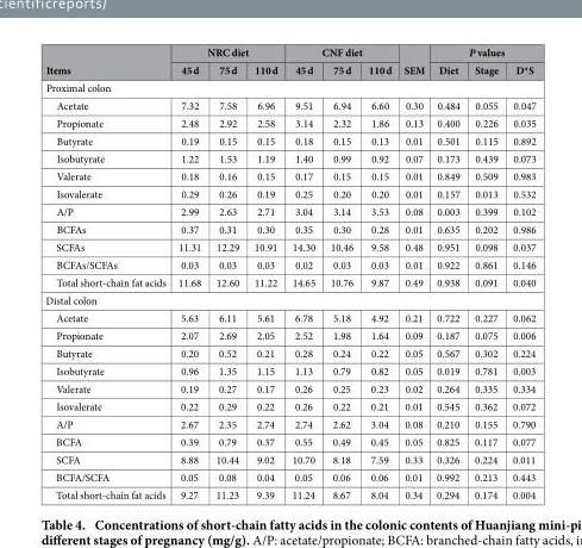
<table><thead><tr><td rowspan="2">Items</td><td colspan="3">NRC diet</td><td colspan="3">CNF diet</td><td rowspan="2">SEM</td><td colspan="3">P values</td></tr><tr><td>45 d</td><td>75 d</td><td>110 d</td><td>45 d</td><td>75 d</td><td>110 d</td><td>Diet</td><td>Stage</td><td>D*S</td></tr></thead><tbody><tr><td colspan="11">Proximal colon</td></tr><tr><td>Acetate</td><td>7.32</td><td>7.58</td><td>6.96</td><td>9.51</td><td>6.94</td><td>6.60</td><td>0.30</td><td>0.484</td><td>0.055</td><td>0.047</td></tr><tr><td>Propionate</td><td>2.48</td><td>2.92</td><td>2.58</td><td>3.14</td><td>2.32</td><td>1.86</td><td>0.13</td><td>0.400</td><td>0.226</td><td>0.035</td></tr><tr><td>Butyrate</td><td>0.19</td><td>0.15</td><td>0.15</td><td>0.18</td><td>0.15</td><td>0.13</td><td>0.01</td><td>0.501</td><td>0.115</td><td>0.892</td></tr><tr><td>Isobutyrate</td><td>1.22</td><td>1.53</td><td>1.19</td><td>1.40</td><td>0.99</td><td>0.92</td><td>0.07</td><td>0.173</td><td>0.439</td><td>0.073</td></tr><tr><td>Valerate</td><td>0.18</td><td>0.16</td><td>0.15</td><td>0.17</td><td>0.15</td><td>0.15</td><td>0.01</td><td>0.849</td><td>0.509</td><td>0.983</td></tr><tr><td>Isovalerate</td><td>0.29</td><td>0.26</td><td>0.19</td><td>0.25</td><td>0.20</td><td>0.20</td><td>0.01</td><td>0.157</td><td>0.013</td><td>0.532</td></tr><tr><td>A/P</td><td>2.99</td><td>2.63</td><td>2.71</td><td>3.04</td><td>3.14</td><td>3.53</td><td>0.08</td><td>0.003</td><td>0.399</td><td>0.102</td></tr><tr><td>BCFAs</td><td>0.37</td><td>0.31</td><td>0.30</td><td>0.35</td><td>0.30</td><td>0.28</td><td>0.01</td><td>0.635</td><td>0.202</td><td>0.986</td></tr><tr><td>SCFAs</td><td>11.31</td><td>12.29</td><td>10.91</td><td>14.30</td><td>10.46</td><td>9.58</td><td>0.48</td><td>0.951</td><td>0.098</td><td>0.037</td></tr><tr><td>BCFAs/SCFAs</td><td>0.03</td><td>0.03</td><td>0.03</td><td>0.02</td><td>0.03</td><td>0.03</td><td>0.01</td><td>0.922</td><td>0.861</td><td>0.146</td></tr><tr><td>Total short-chain fat acids</td><td>11.68</td><td>12.60</td><td>11.22</td><td>14.65</td><td>10.76</td><td>9.87</td><td>0.49</td><td>0.938</td><td>0.091</td><td>0.040</td></tr><tr><td colspan="11">Distal colon</td></tr><tr><td>Acetate</td><td>5.63</td><td>6.11</td><td>5.61</td><td>6.78</td><td>5.18</td><td>4.92</td><td>0.21</td><td>0.722</td><td>0.227</td><td>0.062</td></tr><tr><td>Propionate</td><td>2.07</td><td>2.69</td><td>2.05</td><td>2.52</td><td>1.98</td><td>1.64</td><td>0.09</td><td>0.187</td><td>0.075</td><td>0.006</td></tr><tr><td>Butyrate</td><td>0.20</td><td>0.52</td><td>0.21</td><td>0.28</td><td>0.24</td><td>0.22</td><td>0.05</td><td>0.567</td><td>0.302</td><td>0.224</td></tr><tr><td>Isobutyrate</td><td>0.96</td><td>1.35</td><td>1.15</td><td>1.13</td><td>0.79</td><td>0.82</td><td>0.05</td><td>0.019</td><td>0.781</td><td>0.003</td></tr><tr><td>Valerate</td><td>0.19</td><td>0.27</td><td>0.17</td><td>0.26</td><td>0.25</td><td>0.23</td><td>0.02</td><td>0.264</td><td>0.335</td><td>0.334</td></tr><tr><td>Isovalerate</td><td>0.22</td><td>0.29</td><td>0.22</td><td>0.26</td><td>0.22</td><td>0.21</td><td>0.01</td><td>0.545</td><td>0.362</td><td>0.072</td></tr><tr><td>A/P</td><td>2.67</td><td>2.35</td><td>2.74</td><td>2.74</td><td>2.62</td><td>3.04</td><td>0.08</td><td>0.210</td><td>0.155</td><td>0.790</td></tr><tr><td>BCFA</td><td>0.39</td><td>0.79</td><td>0.37</td><td>0.55</td><td>0.49</td><td>0.45</td><td>0.05</td><td>0.825</td><td>0.117</td><td>0.077</td></tr><tr><td>SCFA</td><td>8.88</td><td>10.44</td><td>9.02</td><td>10.70</td><td>8.18</td><td>7.59</td><td>0.33</td><td>0.326</td><td>0.224</td><td>0.011</td></tr><tr><td>BCFA/SCFA</td><td>0.05</td><td>0.08</td><td>0.04</td><td>0.05</td><td>0.06</td><td>0.06</td><td>0.01</td><td>0.992</td><td>0.213</td><td>0.443</td></tr><tr><td>Total short-chain fat acids</td><td>9.27</td><td>11.23</td><td>9.39</td><td>11.24</td><td>8.67</td><td>8.04</td><td>0.34</td><td>0.294</td><td>0.174</td><td>0.004</td></tr></tbody></table>